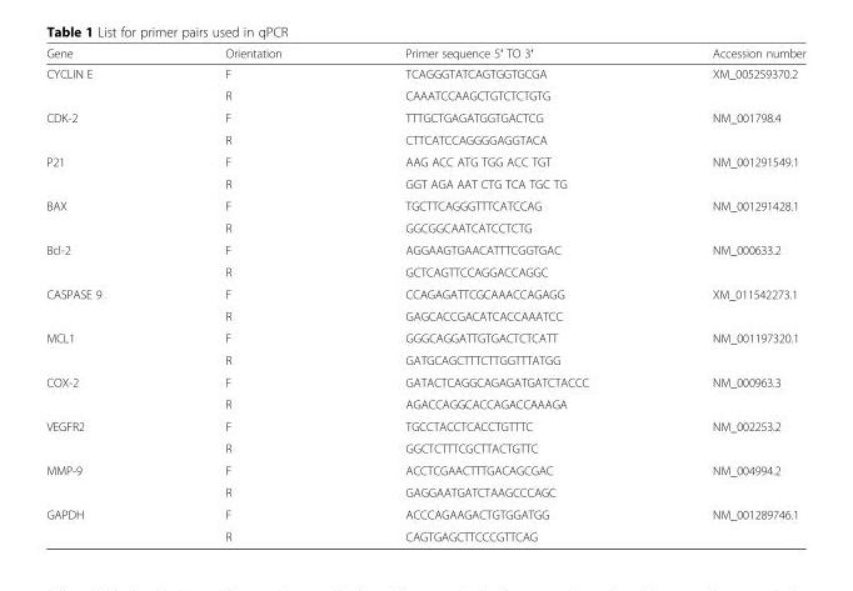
<table><thead><tr><td>Gene</td><td>Orientation</td><td>Primer sequence 5′ TO 3′</td><td>Accession number</td></tr></thead><tbody><tr><td rowspan="2">CYCLIN E</td><td>F</td><td>TCAGGGTATCAGTGGTGCGA</td><td rowspan="2">XM_005259370.2</td></tr><tr><td>R</td><td>CAAATCCAAGCTGTCTCTGTG</td></tr><tr><td rowspan="2">CDK-2</td><td>F</td><td>TTTGCTGAGATGGTGACTCG</td><td rowspan="2">NM_001798.4</td></tr><tr><td>R</td><td>CTTCATCCAGGGGAGGTACA</td></tr><tr><td rowspan="2">P21</td><td>F</td><td>AAG ACC ATG TGG ACC TGT</td><td rowspan="2">NM_001291549.1</td></tr><tr><td>R</td><td>GGT AGA AAT CTG TCA TGC TG</td></tr><tr><td rowspan="2">BAX</td><td>F</td><td>TGCTTCAGGGTTTCATCCAG</td><td rowspan="2">NM_001291428.1</td></tr><tr><td>R</td><td>GGCGGCAATCATCCTCTG</td></tr><tr><td rowspan="2">Bcl-2</td><td>F</td><td>AGGAAGTGAACATTTCGGTGAC</td><td rowspan="2">NM_000633.2</td></tr><tr><td>R</td><td>GCTCAGTTCCAGGACCAGGC</td></tr><tr><td rowspan="2">CASPASE 9</td><td>F</td><td>CCAGAGATTCGCAAACCAGAGG</td><td rowspan="2">XM_011542273.1</td></tr><tr><td>R</td><td>GAGCACCGACATCACCAAATCC</td></tr><tr><td rowspan="2">MCL1</td><td>F</td><td>GGGCAGGATTGTGACTCTCATT</td><td rowspan="2">NM_001197320.1</td></tr><tr><td>R</td><td>GATGCAGCTTTCTTGGTTTATGG</td></tr><tr><td rowspan="2">COX-2</td><td>F</td><td>GATACTCAGGCAGAGATGATCTACCC</td><td rowspan="2">NM_000963.3</td></tr><tr><td>R</td><td>AGACCAGGCACCAGACCAAAGA</td></tr><tr><td rowspan="2">VEGFR2</td><td>F</td><td>TGCCTACCTCACCTGTTTC</td><td rowspan="2">NM_002253.2</td></tr><tr><td>R</td><td>GGCTCTTTCGCTTACTGTTC</td></tr><tr><td rowspan="2">MMP-9</td><td>F</td><td>ACCTCGAACTTTGACAGCGAC</td><td rowspan="2">NM_004994.2</td></tr><tr><td>R</td><td>GAGGAATGATCTAAGCCCAGC</td></tr><tr><td rowspan="2">GAPDH</td><td>F</td><td>ACCCAGAAGACTGTGGATGG</td><td rowspan="2">NM_001289746.1</td></tr><tr><td>R</td><td>CAGTGAGCTTCCCGTTCAG</td></tr></tbody></table>